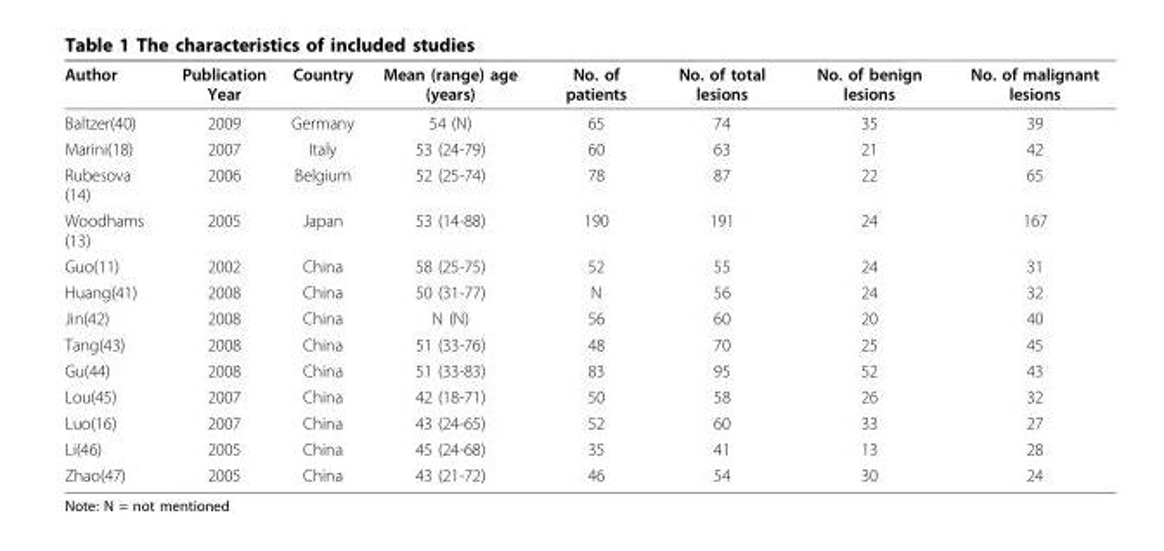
<table><thead><tr><td>Author</td><td>Publication Year</td><td>Country</td><td>Mean (range) age (years)</td><td>No. of patients</td><td>No. of total lesions</td><td>No. of benign lesions</td><td>No. of malignant lesions</td></tr></thead><tbody><tr><td>Baltzer(40)</td><td>2009</td><td>Germany</td><td>54 (N)</td><td>65</td><td>74</td><td>35</td><td>39</td></tr><tr><td>Marini(18)</td><td>2007</td><td>Italy</td><td>53 (24-79)</td><td>60</td><td>63</td><td>21</td><td>42</td></tr><tr><td>Rubesova (14)</td><td>2006</td><td>Belgium</td><td>52 (25-74)</td><td>78</td><td>87</td><td>22</td><td>65</td></tr><tr><td>Woodhams (13)</td><td>2005</td><td>Japan</td><td>53 (14-88)</td><td>190</td><td>191</td><td>24</td><td>167</td></tr><tr><td>Guo(11)</td><td>2002</td><td>China</td><td>58 (25-75)</td><td>52</td><td>55</td><td>24</td><td>31</td></tr><tr><td>Huang(41)</td><td>2008</td><td>China</td><td>50 (31-77)</td><td>N</td><td>56</td><td>24</td><td>32</td></tr><tr><td>Jin(42)</td><td>2008</td><td>China</td><td>N (N)</td><td>56</td><td>60</td><td>20</td><td>40</td></tr><tr><td>Tang(43)</td><td>2008</td><td>China</td><td>51 (33-76)</td><td>48</td><td>70</td><td>25</td><td>45</td></tr><tr><td>Gu(44)</td><td>2008</td><td>China</td><td>51 (33-83)</td><td>83</td><td>95</td><td>52</td><td>43</td></tr><tr><td>Lou(45)</td><td>2007</td><td>China</td><td>42 (18-71)</td><td>50</td><td>58</td><td>26</td><td>32</td></tr><tr><td>Luo(16)</td><td>2007</td><td>China</td><td>43 (24-65)</td><td>52</td><td>60</td><td>33</td><td>27</td></tr><tr><td>Li(46)</td><td>2005</td><td>China</td><td>45 (24-68)</td><td>35</td><td>41</td><td>13</td><td>28</td></tr><tr><td>Zhao(47)</td><td>2005</td><td>China</td><td>43 (21-72)</td><td>46</td><td>54</td><td>30</td><td>24</td></tr></tbody></table>